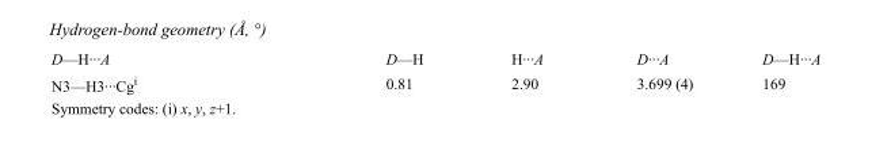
<table><tbody><tr><td>D—H···A</td><td>D—H</td><td>H···A</td><td>D···A</td><td>D—H···A</td></tr><tr><td>N3—H3···Cg<sup>i</sup></td><td>0.81</td><td>2.90</td><td>3.699 (4)</td><td>169</td></tr></tbody></table>